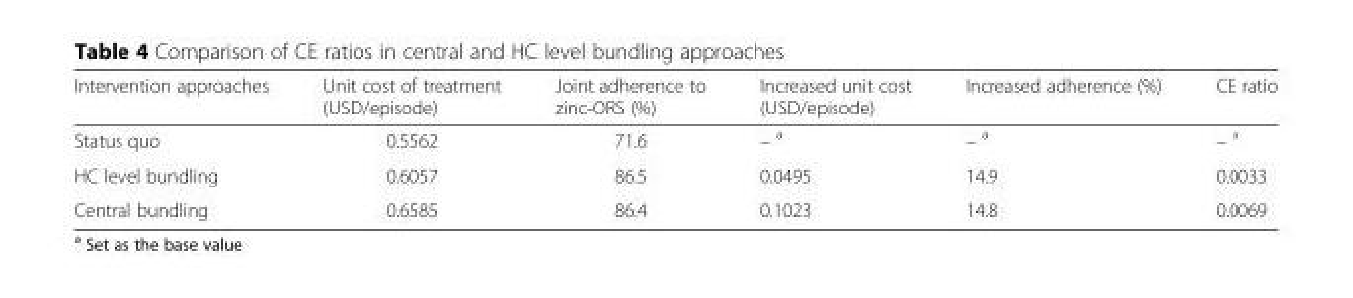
<table><thead><tr><td>Intervention approaches</td><td>Unit cost of treatment (USD/episode)</td><td>Joint adherence to zinc-ORS (%)</td><td>Increased unit cost (USD/episode)</td><td>Increased adherence (%)</td><td>CE ratio</td></tr></thead><tbody><tr><td>Status quo</td><td>0.5562</td><td>71.6</td><td>– <sup>a</sup></td><td>– <sup>a</sup></td><td>– <sup>a</sup></td></tr><tr><td>HC level bundling</td><td>0.6057</td><td>86.5</td><td>0.0495</td><td>14.9</td><td>0.0033</td></tr><tr><td>Central bundling</td><td>0.6585</td><td>86.4</td><td>0.1023</td><td>14.8</td><td>0.0069</td></tr></tbody></table>